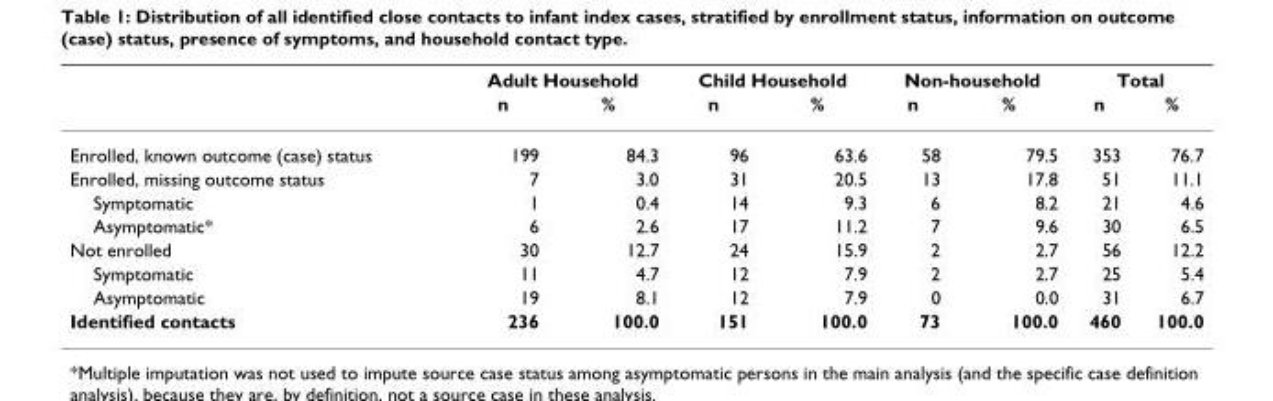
<table><thead><tr><td rowspan="2"></td><td colspan="2">Adult Household</td><td colspan="2">Child Household</td><td colspan="2">Non-household</td><td colspan="2">Total</td></tr><tr><td>n</td><td>%</td><td>n</td><td>%</td><td>n</td><td>%</td><td>n</td><td>%</td></tr></thead><tbody><tr><td>Enrolled, known outcome (case) status</td><td>199</td><td>84.3</td><td>96</td><td>63.6</td><td>58</td><td>79.5</td><td>353</td><td>76.7</td></tr><tr><td>Enrolled, missing outcome status</td><td>7</td><td>3.0</td><td>31</td><td>20.5</td><td>13</td><td>17.8</td><td>51</td><td>11.1</td></tr><tr><td>Symptomatic</td><td>1</td><td>0.4</td><td>14</td><td>9.3</td><td>6</td><td>8.2</td><td>21</td><td>4.6</td></tr><tr><td>Asymptomatic*</td><td>6</td><td>2.6</td><td>17</td><td>11.2</td><td>7</td><td>9.6</td><td>30</td><td>6.5</td></tr><tr><td>Not enrolled</td><td>30</td><td>12.7</td><td>24</td><td>15.9</td><td>2</td><td>2.7</td><td>56</td><td>12.2</td></tr><tr><td>Symptomatic</td><td>11</td><td>4.7</td><td>12</td><td>7.9</td><td>2</td><td>2.7</td><td>25</td><td>5.4</td></tr><tr><td>Asymptomatic</td><td>19</td><td>8.1</td><td>12</td><td>7.9</td><td>0</td><td>0.0</td><td>31</td><td>6.7</td></tr><tr><td>Identified contacts</td><td>236</td><td>100.0</td><td>151</td><td>100.0</td><td>73</td><td>100.0</td><td>460</td><td>100.0</td></tr></tbody></table>